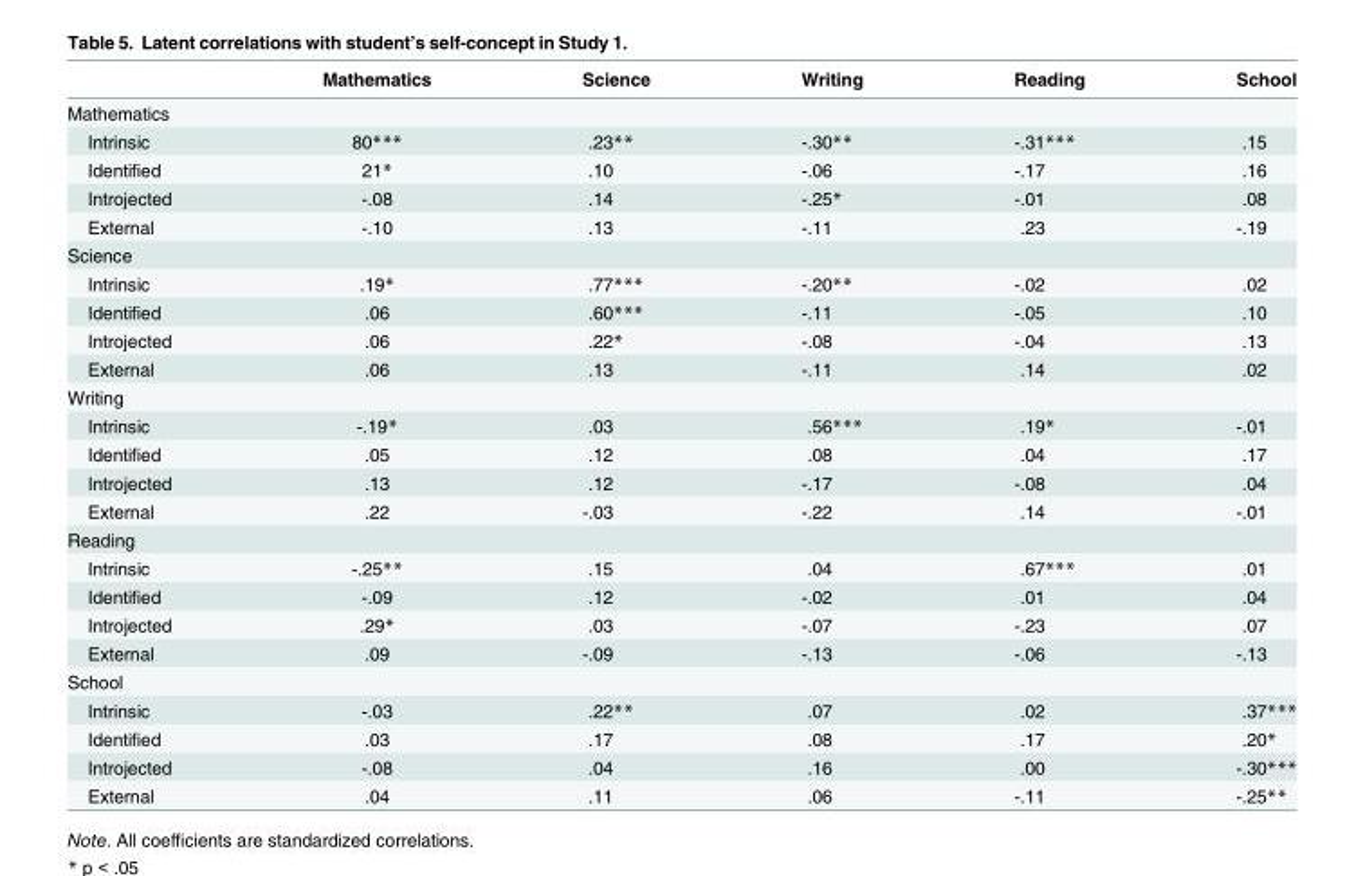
<table><thead><tr><td></td><td>Mathematics</td><td>Science</td><td>Writing</td><td>Reading</td><td>School</td></tr></thead><tbody><tr><td colspan="6">Mathematics</td></tr><tr><td>Intrinsic</td><td>80***</td><td>.23**</td><td>-.30**</td><td>-.31***</td><td>.15</td></tr><tr><td>Identified</td><td>21*</td><td>.10</td><td>-.06</td><td>-.17</td><td>.16</td></tr><tr><td>Introjected</td><td>-.08</td><td>.14</td><td>-.25*</td><td>-.01</td><td>.08</td></tr><tr><td>External</td><td>-.10</td><td>.13</td><td>-.11</td><td>.23</td><td>-.19</td></tr><tr><td colspan="6">Science</td></tr><tr><td>Intrinsic</td><td>.19*</td><td>.77***</td><td>-.20**</td><td>-.02</td><td>.02</td></tr><tr><td>Identified</td><td>.06</td><td>.60***</td><td>-.11</td><td>-.05</td><td>.10</td></tr><tr><td>Introjected</td><td>.06</td><td>.22*</td><td>-.08</td><td>-.04</td><td>.13</td></tr><tr><td>External</td><td>.06</td><td>.13</td><td>-.11</td><td>.14</td><td>.02</td></tr><tr><td colspan="6">Writing</td></tr><tr><td>Intrinsic</td><td>-.19*</td><td>.03</td><td>.56***</td><td>.19*</td><td>-.01</td></tr><tr><td>Identified</td><td>.05</td><td>.12</td><td>.08</td><td>.04</td><td>.17</td></tr><tr><td>Introjected</td><td>.13</td><td>.12</td><td>-.17</td><td>-.08</td><td>.04</td></tr><tr><td>External</td><td>.22</td><td>-.03</td><td>-.22</td><td>.14</td><td>-.01</td></tr><tr><td colspan="6">Reading</td></tr><tr><td>Intrinsic</td><td>-.25**</td><td>.15</td><td>.04</td><td>.67***</td><td>.01</td></tr><tr><td>Identified</td><td>-.09</td><td>.12</td><td>-.02</td><td>.01</td><td>.04</td></tr><tr><td>Introjected</td><td>.29*</td><td>.03</td><td>-.07</td><td>-.23</td><td>.07</td></tr><tr><td>External</td><td>.09</td><td>-.09</td><td>-.13</td><td>-.06</td><td>-.13</td></tr><tr><td colspan="6">School</td></tr><tr><td>Intrinsic</td><td>-.03</td><td>.22**</td><td>.07</td><td>.02</td><td>.37***</td></tr><tr><td>Identified</td><td>.03</td><td>.17</td><td>.08</td><td>.17</td><td>.20*</td></tr><tr><td>Introjected</td><td>-.08</td><td>.04</td><td>.16</td><td>.00</td><td>-.30***</td></tr><tr><td>External</td><td>.04</td><td>.11</td><td>.06</td><td>-.11</td><td>-.25**</td></tr></tbody></table>